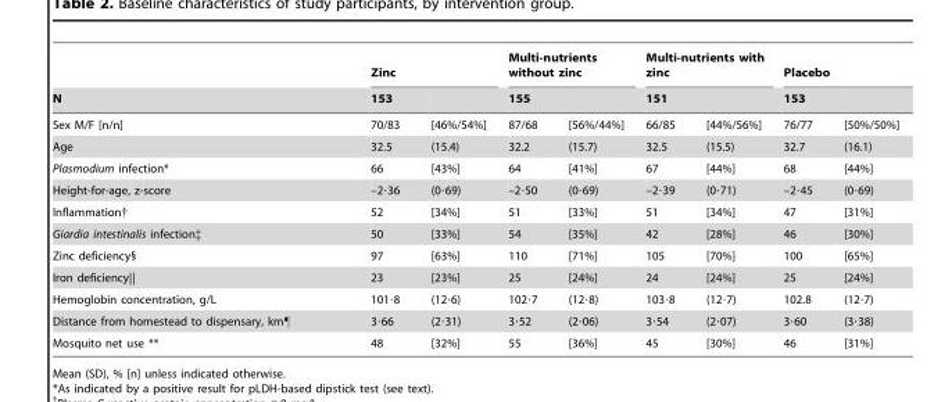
<table><thead><tr><td rowspan="2">N</td><td colspan="2">Zinc</td><td colspan="2">Multi-nutrients without zinc</td><td colspan="2">Multi-nutrients with zinc</td><td colspan="2">Placebo</td></tr><tr><td>153</td><td></td><td>155</td><td></td><td>151</td><td></td><td>153</td><td></td></tr></thead><tbody><tr><td>Sex M/F [n/n]</td><td>70/83</td><td>[46%/54%]</td><td>87/68</td><td>[56%/44%]</td><td>66/85</td><td>[44%/56%]</td><td>76/77</td><td>[50%/50%]</td></tr><tr><td>Age</td><td>32.5</td><td>(15.4)</td><td>32.2</td><td>(15.7)</td><td>32.5</td><td>(15.5)</td><td>32.7</td><td>(16.1)</td></tr><tr><td>Plasmodium infection*</td><td>66</td><td>[43%]</td><td>64</td><td>[41%]</td><td>67</td><td>[44%]</td><td>68</td><td>[44%]</td></tr><tr><td>Height-for-age, z-score</td><td>–2·36</td><td>(0·69)</td><td>–2·50</td><td>(0·69)</td><td>–2·39</td><td>(0·71)</td><td>–2·45</td><td>(0·69)</td></tr><tr><td>Inflammation†</td><td>52</td><td>[34%]</td><td>51</td><td>[33%]</td><td>51</td><td>[34%]</td><td>47</td><td>[31%]</td></tr><tr><td>Giardia intestinalis infection‡</td><td>50</td><td>[33%]</td><td>54</td><td>[35%]</td><td>42</td><td>[28%]</td><td>46</td><td>[30%]</td></tr><tr><td>Zinc deficiency§</td><td>97</td><td>[63%]</td><td>110</td><td>[71%]</td><td>105</td><td>[70%]</td><td>100</td><td>[65%]</td></tr><tr><td>Iron deficiency||</td><td>23</td><td>[23%]</td><td>25</td><td>[24%]</td><td>24</td><td>[24%]</td><td>25</td><td>[24%]</td></tr><tr><td>Hemoglobin concentration, g/L</td><td>101·8</td><td>(12·6)</td><td>102·7</td><td>(12·8)</td><td>103·8</td><td>(12·7)</td><td>102.8</td><td>(12·7)</td></tr><tr><td>Distance from homestead to dispensary, km¶</td><td>3·66</td><td>(2·31)</td><td>3·52</td><td>(2·06)</td><td>3·54</td><td>(2·07)</td><td>3·60</td><td>(3·38)</td></tr><tr><td>Mosquito net use **</td><td>48</td><td>[32%]</td><td>55</td><td>[36%]</td><td>45</td><td>[30%]</td><td>46</td><td>[31%]</td></tr></tbody></table>